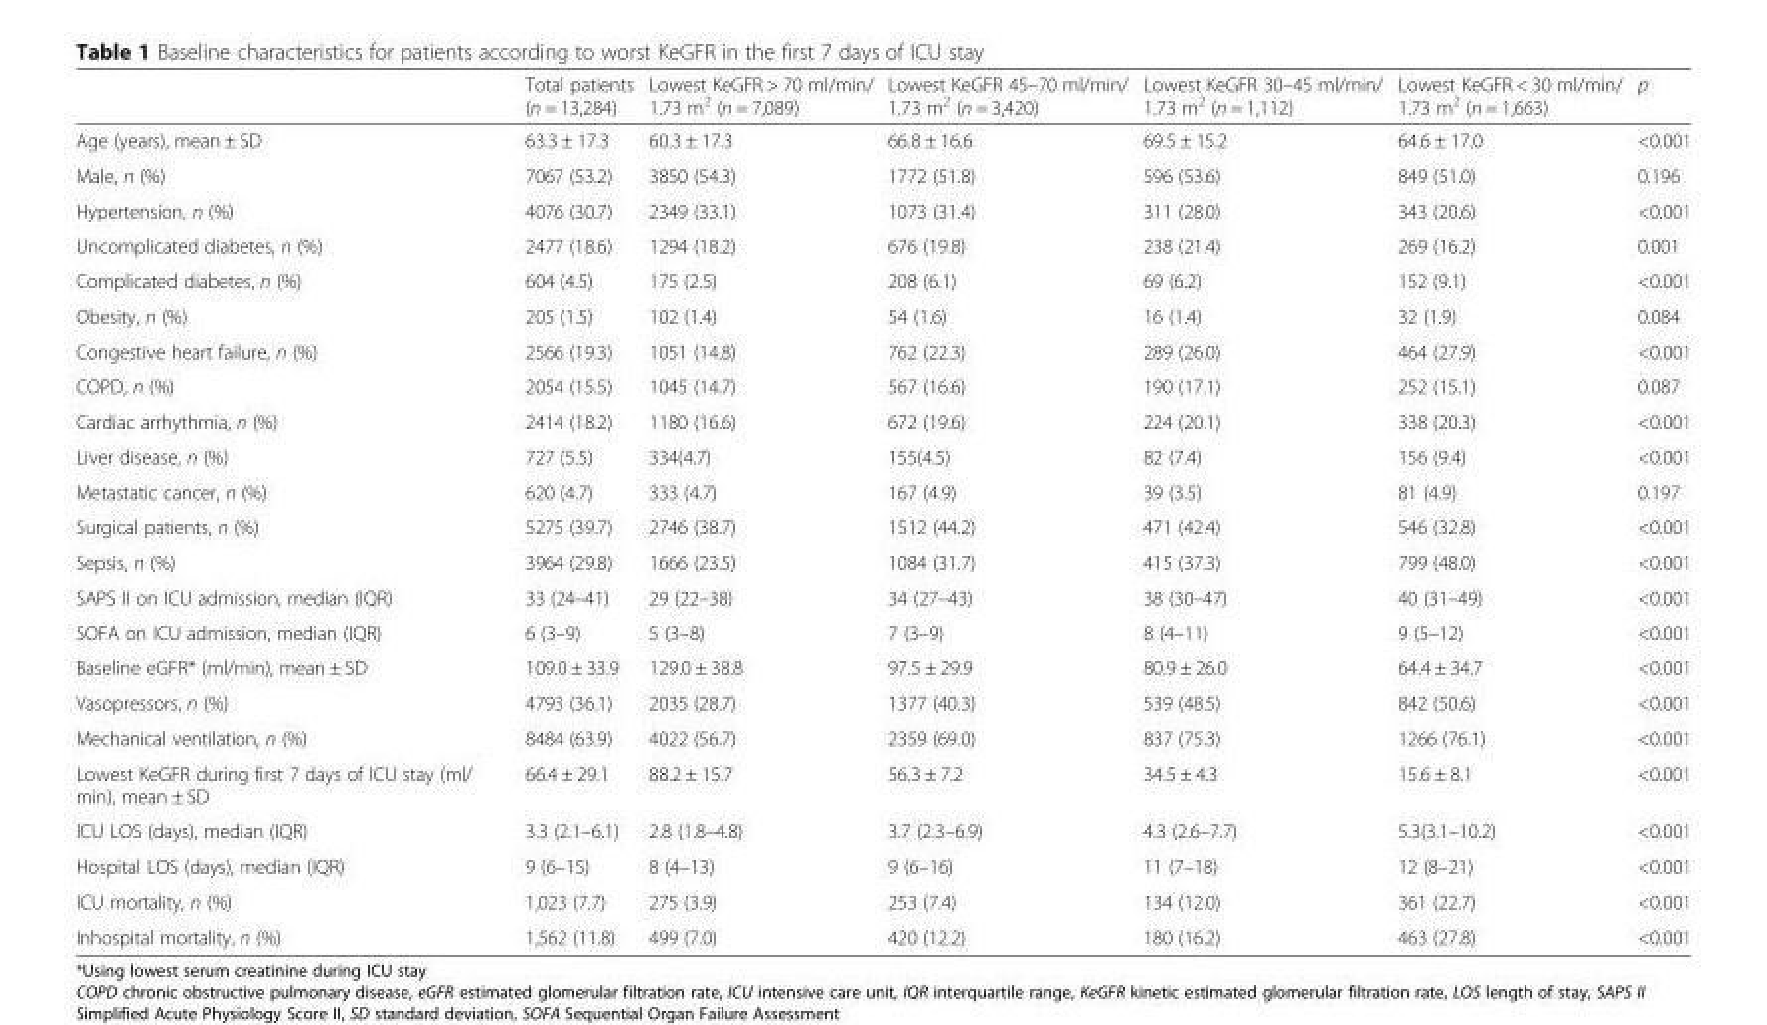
<table><thead><tr><td></td><td>Total patients (n = 13,284)</td><td>Lowest KeGFR &gt; 70 ml/min/ 1.73 m<sup>2</sup> (n = 7,089)</td><td>Lowest KeGFR 45–70 ml/min/ 1.73 m<sup>2</sup> (n = 3,420)</td><td>Lowest KeGFR 30–45 ml/min/ 1.73 m<sup>2</sup> (n = 1,112)</td><td>Lowest KeGFR &lt; 30 ml/min/ 1.73 m<sup>2</sup> (n = 1,663)</td><td>p</td></tr></thead><tbody><tr><td>Age (years), mean ± SD</td><td>63.3 ± 17.3</td><td>60.3 ± 17.3</td><td>66.8 ± 16.6</td><td>69.5 ± 15.2</td><td>64.6 ± 17.0</td><td>&lt;0.001</td></tr><tr><td>Male, n (%)</td><td>7067 (53.2)</td><td>3850 (54.3)</td><td>1772 (51.8)</td><td>596 (53.6)</td><td>849 (51.0)</td><td>0.196</td></tr><tr><td>Hypertension, n (%)</td><td>4076 (30.7)</td><td>2349 (33.1)</td><td>1073 (31.4)</td><td>311 (28.0)</td><td>343 (20.6)</td><td>&lt;0.001</td></tr><tr><td>Uncomplicated diabetes, n (%)</td><td>2477 (18.6)</td><td>1294 (18.2)</td><td>676 (19.8)</td><td>238 (21.4)</td><td>269 (16.2)</td><td>0.001</td></tr><tr><td>Complicated diabetes, n (%)</td><td>604 (4.5)</td><td>175 (2.5)</td><td>208 (6.1)</td><td>69 (6.2)</td><td>152 (9.1)</td><td>&lt;0.001</td></tr><tr><td>Obesity, n (%)</td><td>205 (1.5)</td><td>102 (1.4)</td><td>54 (1.6)</td><td>16 (1.4)</td><td>32 (1.9)</td><td>0.084</td></tr><tr><td>Congestive heart failure, n (%)</td><td>2566 (19.3)</td><td>1051 (14.8)</td><td>762 (22.3)</td><td>289 (26.0)</td><td>464 (27.9)</td><td>&lt;0.001</td></tr><tr><td>COPD, n (%)</td><td>2054 (15.5)</td><td>1045 (14.7)</td><td>567 (16.6)</td><td>190 (17.1)</td><td>252 (15.1)</td><td>0.087</td></tr><tr><td>Cardiac arrhythmia, n (%)</td><td>2414 (18.2)</td><td>1180 (16.6)</td><td>672 (19.6)</td><td>224 (20.1)</td><td>338 (20.3)</td><td>&lt;0.001</td></tr><tr><td>Liver disease, n (%)</td><td>727 (5.5)</td><td>334(4.7)</td><td>155(4.5)</td><td>82 (7.4)</td><td>156 (9.4)</td><td>&lt;0.001</td></tr><tr><td>Metastatic cancer, n (%)</td><td>620 (4.7)</td><td>333 (4.7)</td><td>167 (4.9)</td><td>39 (3.5)</td><td>81 (4.9)</td><td>0.197</td></tr><tr><td>Surgical patients, n (%)</td><td>5275 (39.7)</td><td>2746 (38.7)</td><td>1512 (44.2)</td><td>471 (42.4)</td><td>546 (32.8)</td><td>&lt;0.001</td></tr><tr><td>Sepsis, n (%)</td><td>3964 (29.8)</td><td>1666 (23.5)</td><td>1084 (31.7)</td><td>415 (37.3)</td><td>799 (48.0)</td><td>&lt;0.001</td></tr><tr><td>SAPS II on ICU admission, median (IQR)</td><td>33 (24–41)</td><td>29 (22–38)</td><td>34 (27–43)</td><td>38 (30–47)</td><td>40 (31–49)</td><td>&lt;0.001</td></tr><tr><td>SOFA on ICU admission, median (IQR)</td><td>6 (3–9)</td><td>5 (3–8)</td><td>7 (3–9)</td><td>8 (4–11)</td><td>9 (5–12)</td><td>&lt;0.001</td></tr><tr><td>Baseline eGFR* (ml/min), mean ± SD</td><td>109.0 ± 33.9</td><td>129.0 ± 38.8</td><td>97.5 ± 29.9</td><td>80.9 ± 26.0</td><td>64.4 ± 34.7</td><td>&lt;0.001</td></tr><tr><td>Vasopressors, n (%)</td><td>4793 (36.1)</td><td>2035 (28.7)</td><td>1377 (40.3)</td><td>539 (48.5)</td><td>842 (50.6)</td><td>&lt;0.001</td></tr><tr><td>Mechanical ventilation, n (%)</td><td>8484 (63.9)</td><td>4022 (56.7)</td><td>2359 (69.0)</td><td>837 (75.3)</td><td>1266 (76.1)</td><td>&lt;0.001</td></tr><tr><td>Lowest KeGFR during first 7 days of ICU stay (ml/ min), mean ± SD</td><td>66.4 ± 29.1</td><td>88.2 ± 15.7</td><td>56.3 ± 7.2</td><td>34.5 ± 4.3</td><td>15.6 ± 8.1</td><td>&lt;0.001</td></tr><tr><td>ICU LOS (days), median (IQR)</td><td>3.3 (2.1–6.1)</td><td>2.8 (1.8–4.8)</td><td>3.7 (2.3–6.9)</td><td>4.3 (2.6–7.7)</td><td>5.3(3.1–10.2)</td><td>&lt;0.001</td></tr><tr><td>Hospital LOS (days), median (IQR)</td><td>9 (6–15)</td><td>8 (4–13)</td><td>9 (6–16)</td><td>11 (7–18)</td><td>12 (8–21)</td><td>&lt;0.001</td></tr><tr><td>ICU mortality, n (%)</td><td>1,023 (7.7)</td><td>275 (3.9)</td><td>253 (7.4)</td><td>134 (12.0)</td><td>361 (22.7)</td><td>&lt;0.001</td></tr><tr><td>Inhospital mortality, n (%)</td><td>1,562 (11.8)</td><td>499 (7.0)</td><td>420 (12.2)</td><td>180 (16.2)</td><td>463 (27.8)</td><td>&lt;0.001</td></tr></tbody></table>